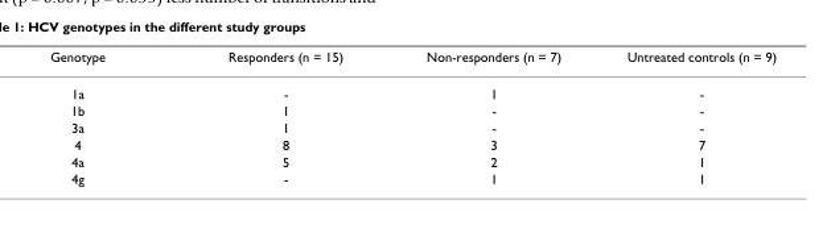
<table><thead><tr><td>Genotype</td><td>Responders (n = 15)</td><td>Non-responders (n = 7)</td><td>Untreated controls (n = 9)</td></tr></thead><tbody><tr><td>1a</td><td>-</td><td>1</td><td>-</td></tr><tr><td>1b</td><td>1</td><td>-</td><td>-</td></tr><tr><td>3a</td><td>1</td><td>-</td><td>-</td></tr><tr><td>4</td><td>8</td><td>3</td><td>7</td></tr><tr><td>4a</td><td>5</td><td>2</td><td>1</td></tr><tr><td>4g</td><td>-</td><td>1</td><td>1</td></tr></tbody></table>